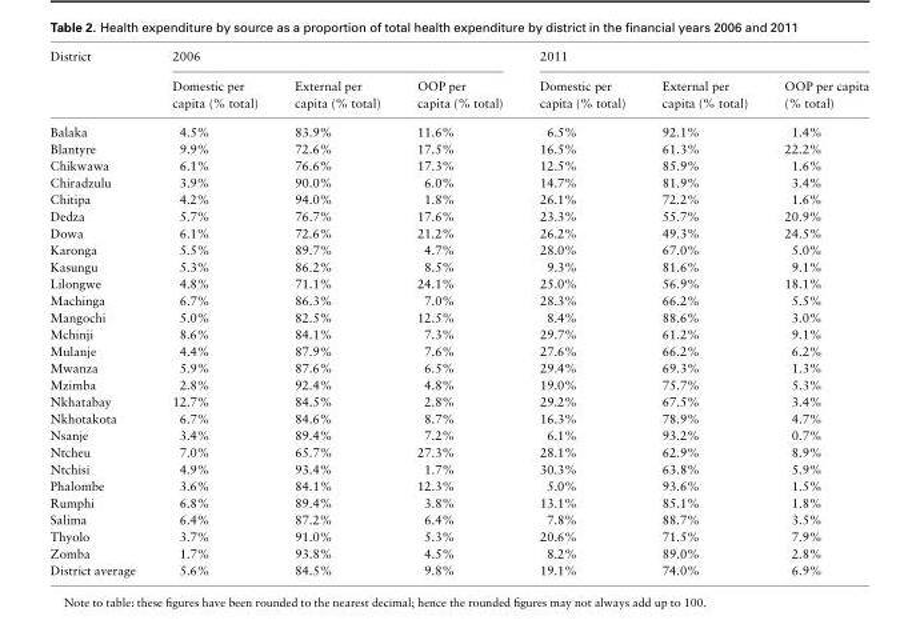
<table><thead><tr><td rowspan="2">District</td><td colspan="3">2006</td><td colspan="3">2011</td></tr><tr><td>Domestic per capita (% total)</td><td>External per capita (% total)</td><td>OOP per capita (% total)</td><td>Domestic per capita (% total)</td><td>External per capita (% total)</td><td>OOP per capita (% total)</td></tr></thead><tbody><tr><td>Balaka</td><td>4.5%</td><td>83.9%</td><td>11.6%</td><td>6.5%</td><td>92.1%</td><td>1.4%</td></tr><tr><td>Blantyre</td><td>9.9%</td><td>72.6%</td><td>17.5%</td><td>16.5%</td><td>61.3%</td><td>22.2%</td></tr><tr><td>Chikwawa</td><td>6.1%</td><td>76.6%</td><td>17.3%</td><td>12.5%</td><td>85.9%</td><td>1.6%</td></tr><tr><td>Chiradzulu</td><td>3.9%</td><td>90.0%</td><td>6.0%</td><td>14.7%</td><td>81.9%</td><td>3.4%</td></tr><tr><td>Chitipa</td><td>4.2%</td><td>94.0%</td><td>1.8%</td><td>26.1%</td><td>72.2%</td><td>1.6%</td></tr><tr><td>Dedza</td><td>5.7%</td><td>76.7%</td><td>17.6%</td><td>23.3%</td><td>55.7%</td><td>20.9%</td></tr><tr><td>Dowa</td><td>6.1%</td><td>72.6%</td><td>21.2%</td><td>26.2%</td><td>49.3%</td><td>24.5%</td></tr><tr><td>Karonga</td><td>5.5%</td><td>89.7%</td><td>4.7%</td><td>28.0%</td><td>67.0%</td><td>5.0%</td></tr><tr><td>Kasungu</td><td>5.3%</td><td>86.2%</td><td>8.5%</td><td>9.3%</td><td>81.6%</td><td>9.1%</td></tr><tr><td>Lilongwe</td><td>4.8%</td><td>71.1%</td><td>24.1%</td><td>25.0%</td><td>56.9%</td><td>18.1%</td></tr><tr><td>Machinga</td><td>6.7%</td><td>86.3%</td><td>7.0%</td><td>28.3%</td><td>66.2%</td><td>5.5%</td></tr><tr><td>Mangochi</td><td>5.0%</td><td>82.5%</td><td>12.5%</td><td>8.4%</td><td>88.6%</td><td>3.0%</td></tr><tr><td>Mchinji</td><td>8.6%</td><td>84.1%</td><td>7.3%</td><td>29.7%</td><td>61.2%</td><td>9.1%</td></tr><tr><td>Mulanje</td><td>4.4%</td><td>87.9%</td><td>7.6%</td><td>27.6%</td><td>66.2%</td><td>6.2%</td></tr><tr><td>Mwanza</td><td>5.9%</td><td>87.6%</td><td>6.5%</td><td>29.4%</td><td>69.3%</td><td>1.3%</td></tr><tr><td>Mzimba</td><td>2.8%</td><td>92.4%</td><td>4.8%</td><td>19.0%</td><td>75.7%</td><td>5.3%</td></tr><tr><td>Nkhatabay</td><td>12.7%</td><td>84.5%</td><td>2.8%</td><td>29.2%</td><td>67.5%</td><td>3.4%</td></tr><tr><td>Nkhotakota</td><td>6.7%</td><td>84.6%</td><td>8.7%</td><td>16.3%</td><td>78.9%</td><td>4.7%</td></tr><tr><td>Nsanje</td><td>3.4%</td><td>89.4%</td><td>7.2%</td><td>6.1%</td><td>93.2%</td><td>0.7%</td></tr><tr><td>Ntcheu</td><td>7.0%</td><td>65.7%</td><td>27.3%</td><td>28.1%</td><td>62.9%</td><td>8.9%</td></tr><tr><td>Ntchisi</td><td>4.9%</td><td>93.4%</td><td>1.7%</td><td>30.3%</td><td>63.8%</td><td>5.9%</td></tr><tr><td>Phalombe</td><td>3.6%</td><td>84.1%</td><td>12.3%</td><td>5.0%</td><td>93.6%</td><td>1.5%</td></tr><tr><td>Rumphi</td><td>6.8%</td><td>89.4%</td><td>3.8%</td><td>13.1%</td><td>85.1%</td><td>1.8%</td></tr><tr><td>Salima</td><td>6.4%</td><td>87.2%</td><td>6.4%</td><td>7.8%</td><td>88.7%</td><td>3.5%</td></tr><tr><td>Thyolo</td><td>3.7%</td><td>91.0%</td><td>5.3%</td><td>20.6%</td><td>71.5%</td><td>7.9%</td></tr><tr><td>Zomba</td><td>1.7%</td><td>93.8%</td><td>4.5%</td><td>8.2%</td><td>89.0%</td><td>2.8%</td></tr><tr><td>District average</td><td>5.6%</td><td>84.5%</td><td>9.8%</td><td>19.1%</td><td>74.0%</td><td>6.9%</td></tr></tbody></table>